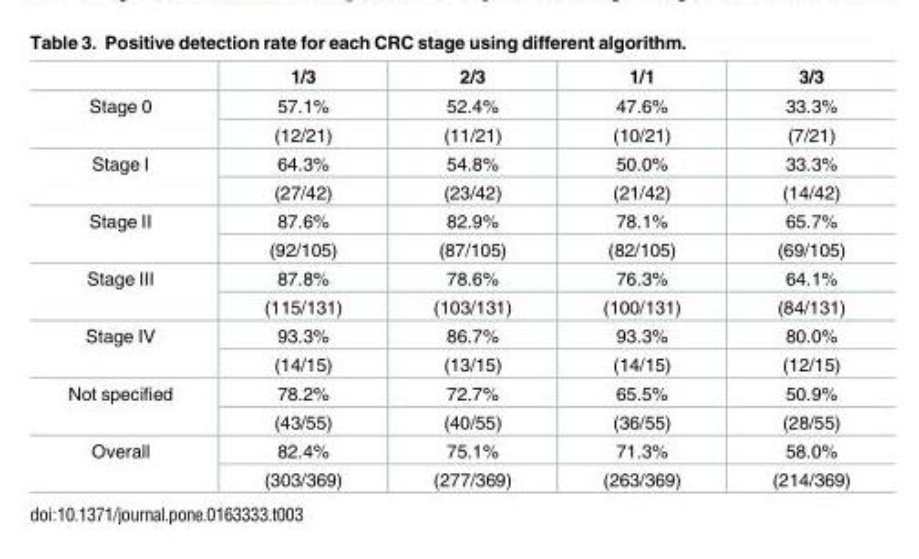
<table><thead><tr><td></td><td>1/3</td><td>2/3</td><td>1/1</td><td>3/3</td></tr></thead><tbody><tr><td rowspan="2">Stage 0</td><td>57.1%</td><td>52.4%</td><td>47.6%</td><td>33.3%</td></tr><tr><td>(12/21)</td><td>(11/21)</td><td>(10/21)</td><td>(7/21)</td></tr><tr><td rowspan="2">Stage I</td><td>64.3%</td><td>54.8%</td><td>50.0%</td><td>33.3%</td></tr><tr><td>(27/42)</td><td>(23/42)</td><td>(21/42)</td><td>(14/42)</td></tr><tr><td rowspan="2">Stage II</td><td>87.6%</td><td>82.9%</td><td>78.1%</td><td>65.7%</td></tr><tr><td>(92/105)</td><td>(87/105)</td><td>(82/105)</td><td>(69/105)</td></tr><tr><td rowspan="2">Stage III</td><td>87.8%</td><td>78.6%</td><td>76.3%</td><td>64.1%</td></tr><tr><td>(115/131)</td><td>(103/131)</td><td>(100/131)</td><td>(84/131)</td></tr><tr><td rowspan="2">Stage IV</td><td>93.3%</td><td>86.7%</td><td>93.3%</td><td>80.0%</td></tr><tr><td>(14/15)</td><td>(13/15)</td><td>(14/15)</td><td>(12/15)</td></tr><tr><td rowspan="2">Not specified</td><td>78.2%</td><td>72.7%</td><td>65.5%</td><td>50.9%</td></tr><tr><td>(43/55)</td><td>(40/55)</td><td>(36/55)</td><td>(28/55)</td></tr><tr><td rowspan="2">Overall</td><td>82.4%</td><td>75.1%</td><td>71.3%</td><td>58.0%</td></tr><tr><td>(303/369)</td><td>(277/369)</td><td>(263/369)</td><td>(214/369)</td></tr></tbody></table>